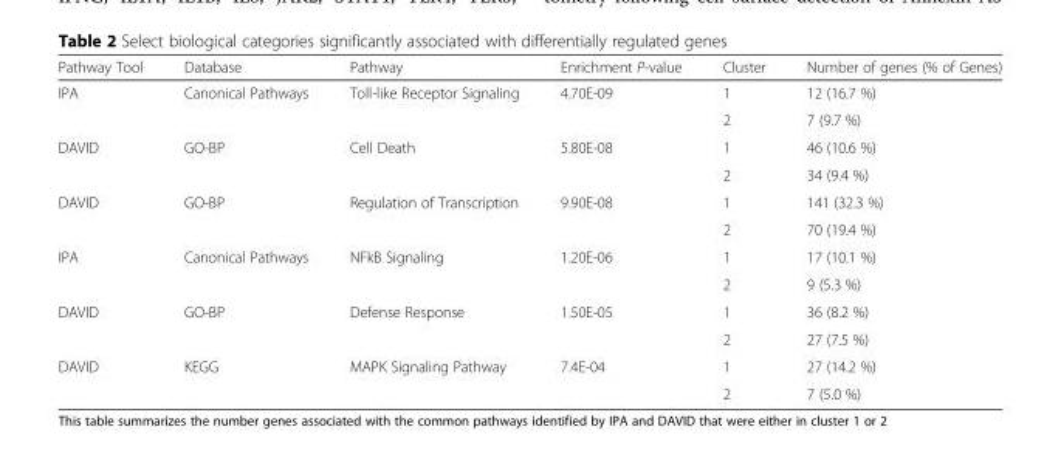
<table><thead><tr><td>Pathway Tool</td><td>Database</td><td>Pathway</td><td>Enrichment P-value</td><td>Cluster</td><td>Number of genes (% of Genes)</td></tr></thead><tbody><tr><td rowspan="2">IPA</td><td rowspan="2">Canonical Pathways</td><td rowspan="2">Toll-like Receptor Signaling</td><td rowspan="2">4.70E-09</td><td>1</td><td>12 (16.7 %)</td></tr><tr><td>2</td><td>7 (9.7 %)</td></tr><tr><td rowspan="2">DAVID</td><td rowspan="2">GO-BP</td><td rowspan="2">Cell Death</td><td rowspan="2">5.80E-08</td><td>1</td><td>46 (10.6 %)</td></tr><tr><td>2</td><td>34 (9.4 %)</td></tr><tr><td rowspan="2">DAVID</td><td rowspan="2">GO-BP</td><td rowspan="2">Regulation of Transcription</td><td rowspan="2">9.90E-08</td><td>1</td><td>141 (32.3 %)</td></tr><tr><td>2</td><td>70 (19.4 %)</td></tr><tr><td rowspan="2">IPA</td><td rowspan="2">Canonical Pathways</td><td rowspan="2">NFkB Signaling</td><td rowspan="2">1.20E-06</td><td>1</td><td>17 (10.1 %)</td></tr><tr><td>2</td><td>9 (5.3 %)</td></tr><tr><td rowspan="2">DAVID</td><td rowspan="2">GO-BP</td><td rowspan="2">Defense Response</td><td rowspan="2">1.50E-05</td><td>1</td><td>36 (8.2 %)</td></tr><tr><td>2</td><td>27 (7.5 %)</td></tr><tr><td rowspan="2">DAVID</td><td rowspan="2">KEGG</td><td rowspan="2">MAPK Signaling Pathway</td><td rowspan="2">7.4E-04</td><td>1</td><td>27 (14.2 %)</td></tr><tr><td>2</td><td>7 (5.0 %)</td></tr></tbody></table>